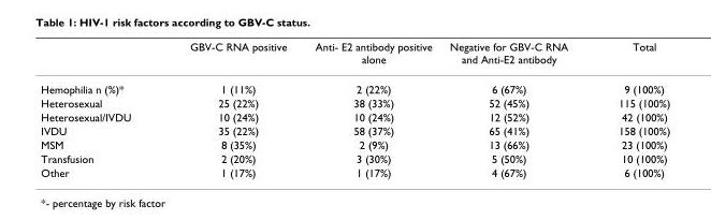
<table><thead><tr><td></td><td>GBV-C RNA positive</td><td>Anti- E2 antibody positive alone</td><td>Negative for GBV-C RNA and Anti-E2 antibody</td><td>Total</td></tr></thead><tbody><tr><td>Hemophilia n (%)*</td><td>1 (11%)</td><td>2 (22%)</td><td>6 (67%)</td><td>9 (100%)</td></tr><tr><td>Heterosexual</td><td>25 (22%)</td><td>38 (33%)</td><td>52 (45%)</td><td>115 (100%)</td></tr><tr><td>Heterosexual/IVDU</td><td>10 (24%)</td><td>10 (24%)</td><td>12 (52%)</td><td>42 (100%)</td></tr><tr><td>IVDU</td><td>35 (22%)</td><td>58 (37%)</td><td>65 (41%)</td><td>158 (100%)</td></tr><tr><td>MSM</td><td>8 (35%)</td><td>2 (9%)</td><td>13 (66%)</td><td>23 (100%)</td></tr><tr><td>Transfusion</td><td>2 (20%)</td><td>3 (30%)</td><td>5 (50%)</td><td>10 (100%)</td></tr><tr><td>Other</td><td>1 (17%)</td><td>1 (17%)</td><td>4 (67%)</td><td>6 (100%)</td></tr></tbody></table>